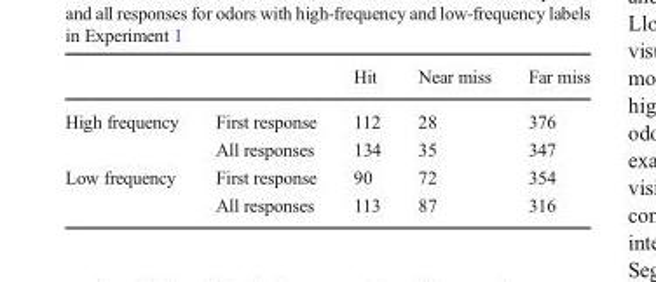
<table><thead><tr><td></td><td></td><td>Hit</td><td>Near miss</td><td>Far miss</td></tr></thead><tbody><tr><td rowspan="2">High frequency</td><td>First response</td><td>112</td><td>28</td><td>376</td></tr><tr><td>All responses</td><td>134</td><td>35</td><td>347</td></tr><tr><td rowspan="2">Low frequency</td><td>First response</td><td>90</td><td>72</td><td>354</td></tr><tr><td>All responses</td><td>113</td><td>87</td><td>316</td></tr></tbody></table>